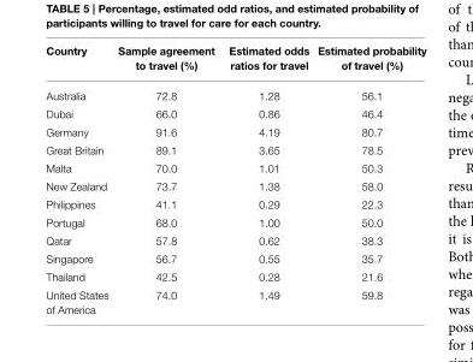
<table><thead><tr><td>Country</td><td>Sample agreement to travel (%)</td><td>Estimated odds ratios for travel</td><td>Estimated probability of travel (%)</td></tr></thead><tbody><tr><td>Australia</td><td>72.8</td><td>1.28</td><td>56.1</td></tr><tr><td>Dubai</td><td>66.0</td><td>0.86</td><td>46.4</td></tr><tr><td>Germany</td><td>91.6</td><td>4.19</td><td>80.7</td></tr><tr><td>Great Britain</td><td>89.1</td><td>3.65</td><td>78.5</td></tr><tr><td>Malta</td><td>70.0</td><td>1.01</td><td>50.3</td></tr><tr><td>New Zealand</td><td>73.7</td><td>1.38</td><td>58.0</td></tr><tr><td>Philippines</td><td>41.1</td><td>0.29</td><td>22.3</td></tr><tr><td>Portugal</td><td>68.0</td><td>1.00</td><td>50.0</td></tr><tr><td>Qatar</td><td>57.8</td><td>0.62</td><td>38.3</td></tr><tr><td>Singapore</td><td>56.7</td><td>0.55</td><td>35.7</td></tr><tr><td>Thailand</td><td>42.5</td><td>0.28</td><td>21.6</td></tr><tr><td>United States of America</td><td>74.0</td><td>1.49</td><td>59.8</td></tr></tbody></table>